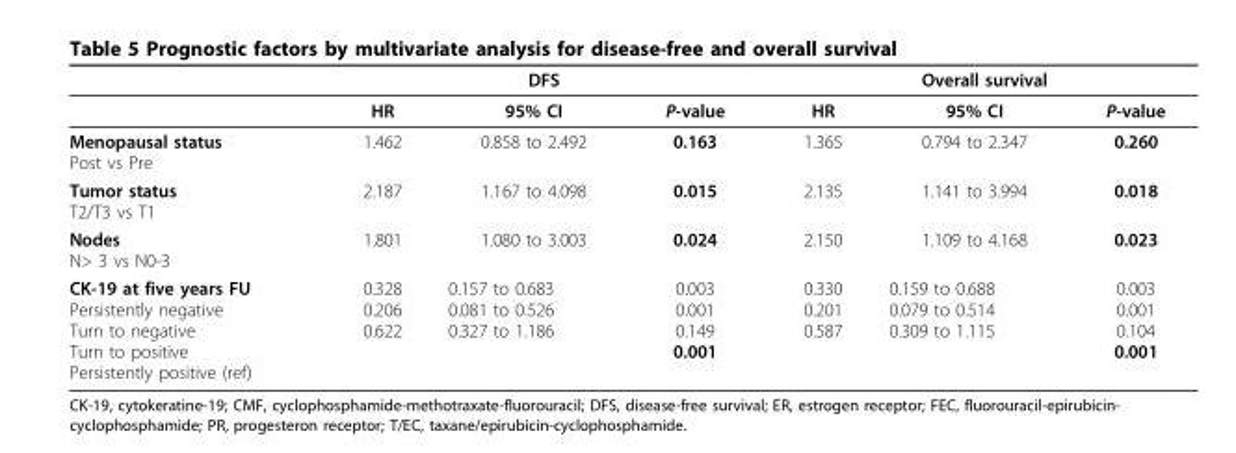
<table><thead><tr><td rowspan="2"></td><td colspan="3">DFS</td><td colspan="3">Overall survival</td></tr><tr><td>HR</td><td>95% CI</td><td>P-value</td><td>HR</td><td>95% CI</td><td>P-value</td></tr></thead><tbody><tr><td>Menopausal status Post vs Pre</td><td>1.462</td><td>0.858 to 2.492</td><td>0.163</td><td>1.365</td><td>0.794 to 2.347</td><td>0.260</td></tr><tr><td>Tumor status T2/T3 vs T1</td><td>2.187</td><td>1.167 to 4.098</td><td>0.015</td><td>2.135</td><td>1.141 to 3.994</td><td>0.018</td></tr><tr><td>Nodes N&gt; 3 vs N0-3</td><td>1.801</td><td>1.080 to 3.003</td><td>0.024</td><td>2.150</td><td>1.109 to 4.168</td><td>0.023</td></tr><tr><td>CK-19 at five years FU Persistently negative Turn to negative Turn to positive Persistently positive (ref)</td><td>0.328 0.206 0.622</td><td>0.157 to 0.683 0.081 to 0.526 0.327 to 1.186</td><td>0.003 0.001 0.149 0.001</td><td>0.330 0.201 0.587</td><td>0.159 to 0.688 0.079 to 0.514 0.309 to 1.115</td><td>0.003 0.001 0.104 0.001</td></tr></tbody></table>